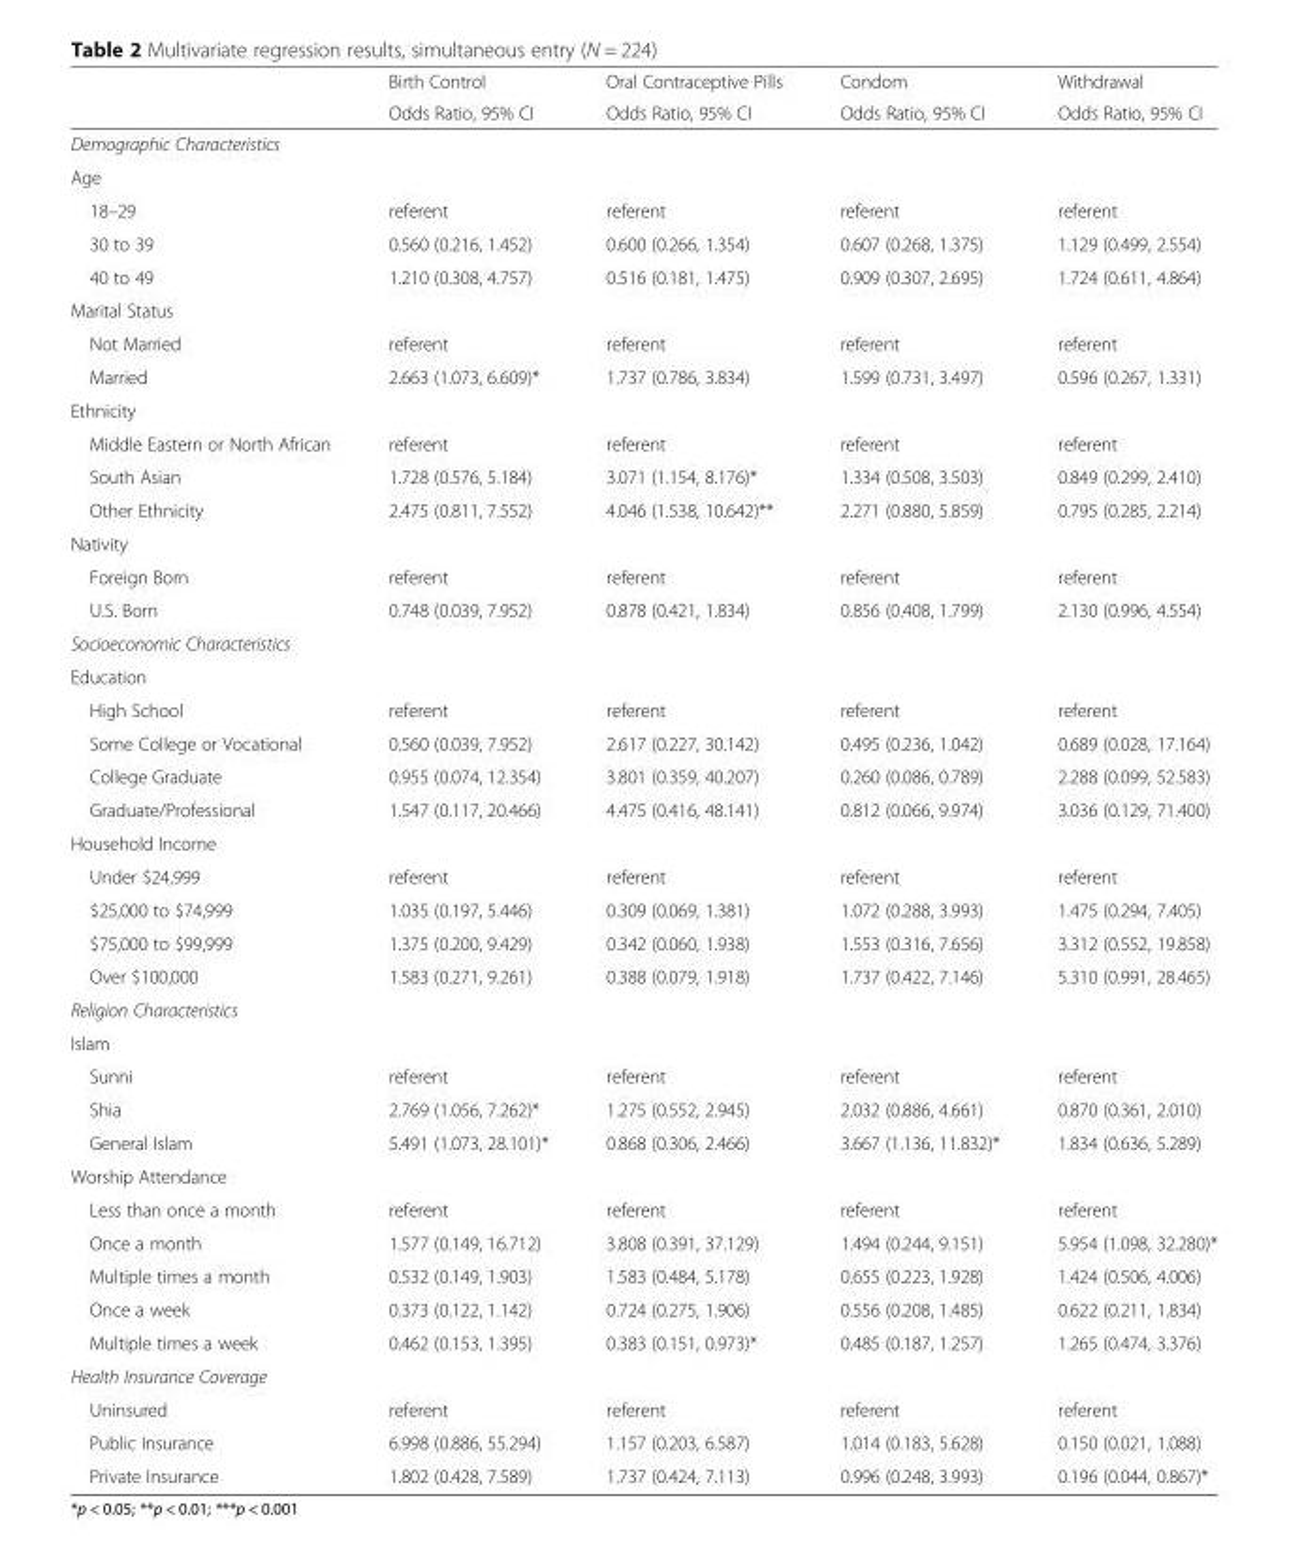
<table><thead><tr><td rowspan="2"></td><td rowspan="2">Birth Control Odds Ratio, 95% CI</td><td rowspan="2">Oral Contraceptive Pills Odds Ratio, 95% CI</td><td rowspan="2">Condom Odds Ratio, 95% CI</td><td rowspan="2">Withdrawal Odds Ratio, 95% CI</td></tr><tr></tr></thead><tbody><tr><td colspan="5">Demographic Characteristics</td></tr><tr><td colspan="5">Age</td></tr><tr><td>18–29</td><td>referent</td><td>referent</td><td>referent</td><td>referent</td></tr><tr><td>30 to 39</td><td>0.560 (0.216, 1.452)</td><td>0.600 (0.266, 1.354)</td><td>0.607 (0.268, 1.375)</td><td>1.129 (0.499, 2.554)</td></tr><tr><td>40 to 49</td><td>1.210 (0.308, 4.757)</td><td>0.516 (0.181, 1.475)</td><td>0.909 (0.307, 2.695)</td><td>1.724 (0.611, 4.864)</td></tr><tr><td colspan="5">Marital Status</td></tr><tr><td>Not Married</td><td>referent</td><td>referent</td><td>referent</td><td>referent</td></tr><tr><td>Married</td><td>2.663 (1.073, 6.609)*</td><td>1.737 (0.786, 3.834)</td><td>1.599 (0.731, 3.497)</td><td>0.596 (0.267, 1.331)</td></tr><tr><td colspan="5">Ethnicity</td></tr><tr><td>Middle Eastern or North African</td><td>referent</td><td>referent</td><td>referent</td><td>referent</td></tr><tr><td>South Asian</td><td>1.728 (0.576, 5.184)</td><td>3.071 (1.154, 8.176)*</td><td>1.334 (0.508, 3.503)</td><td>0.849 (0.299, 2.410)</td></tr><tr><td>Other Ethnicity</td><td>2.475 (0.811, 7.552)</td><td>4.046 (1.538, 10.642)**</td><td>2.271 (0.880, 5.859)</td><td>0.795 (0.285, 2.214)</td></tr><tr><td colspan="5">Nativity</td></tr><tr><td>Foreign Born</td><td>referent</td><td>referent</td><td>referent</td><td>referent</td></tr><tr><td>U.S. Born</td><td>0.748 (0.039, 7.952)</td><td>0.878 (0.421, 1.834)</td><td>0.856 (0.408, 1.799)</td><td>2.130 (0.996, 4.554)</td></tr><tr><td colspan="5">Socioeconomic Characteristics</td></tr><tr><td colspan="5">Education</td></tr><tr><td>High School</td><td>referent</td><td>referent</td><td>referent</td><td>referent</td></tr><tr><td>Some College or Vocational</td><td>0.560 (0.039, 7.952)</td><td>2.617 (0.227, 30.142)</td><td>0.495 (0.236, 1.042)</td><td>0.689 (0.028, 17.164)</td></tr><tr><td>College Graduate</td><td>0.955 (0.074, 12.354)</td><td>3.801 (0.359, 40.207)</td><td>0.260 (0.086, 0.789)</td><td>2.288 (0.099, 52.583)</td></tr><tr><td>Graduate/Professional</td><td>1.547 (0.117, 20.466)</td><td>4.475 (0.416, 48.141)</td><td>0.812 (0.066, 9.974)</td><td>3.036 (0.129, 71.400)</td></tr><tr><td colspan="5">Household Income</td></tr><tr><td>Under $24,999</td><td>referent</td><td>referent</td><td>referent</td><td>referent</td></tr><tr><td>$25,000 to $74,999</td><td>1.035 (0.197, 5.446)</td><td>0.309 (0.069, 1.381)</td><td>1.072 (0.288, 3.993)</td><td>1.475 (0.294, 7.405)</td></tr><tr><td>$75,000 to $99,999</td><td>1.375 (0.200, 9.429)</td><td>0.342 (0.060, 1.938)</td><td>1.553 (0.316, 7.656)</td><td>3.312 (0.552, 19.858)</td></tr><tr><td>Over $100,000</td><td>1.583 (0.271, 9.261)</td><td>0.388 (0.079, 1.918)</td><td>1.737 (0.422, 7.146)</td><td>5.310 (0.991, 28.465)</td></tr><tr><td colspan="5">Religion Characteristics</td></tr><tr><td colspan="5">Islam</td></tr><tr><td>Sunni</td><td>referent</td><td>referent</td><td>referent</td><td>referent</td></tr><tr><td>Shia</td><td>2.769 (1.056, 7.262)*</td><td>1.275 (0.552, 2.945)</td><td>2.032 (0.886, 4.661)</td><td>0.870 (0.361, 2.010)</td></tr><tr><td>General Islam</td><td>5.491 (1.073, 28.101)*</td><td>0.868 (0.306, 2.466)</td><td>3.667 (1.136, 11.832)*</td><td>1.834 (0.636, 5.289)</td></tr><tr><td colspan="5">Worship Attendance</td></tr><tr><td>Less than once a month</td><td>referent</td><td>referent</td><td>referent</td><td>referent</td></tr><tr><td>Once a month</td><td>1.577 (0.149, 16.712)</td><td>3.808 (0.391, 37.129)</td><td>1.494 (0.244, 9.151)</td><td>5.954 (1.098, 32.280)*</td></tr><tr><td>Multiple times a month</td><td>0.532 (0.149, 1.903)</td><td>1.583 (0.484, 5.178)</td><td>0.655 (0.223, 1.928)</td><td>1.424 (0.506, 4.006)</td></tr><tr><td>Once a week</td><td>0.373 (0.122, 1.142)</td><td>0.724 (0.275, 1.906)</td><td>0.556 (0.208, 1.485)</td><td>0.622 (0.211, 1.834)</td></tr><tr><td>Multiple times a week</td><td>0.462 (0.153, 1.395)</td><td>0.383 (0.151, 0.973)*</td><td>0.485 (0.187, 1.257)</td><td>1.265 (0.474, 3.376)</td></tr><tr><td colspan="5">Health Insurance Coverage</td></tr><tr><td>Uninsured</td><td>referent</td><td>referent</td><td>referent</td><td>referent</td></tr><tr><td>Public Insurance</td><td>6.998 (0.886, 55.294)</td><td>1.157 (0.203, 6.587)</td><td>1.014 (0.183, 5.628)</td><td>0.150 (0.021, 1.088)</td></tr><tr><td>Private Insurance</td><td>1.802 (0.428, 7.589)</td><td>1.737 (0.424, 7.113)</td><td>0.996 (0.248, 3.993)</td><td>0.196 (0.044, 0.867)*</td></tr></tbody></table>